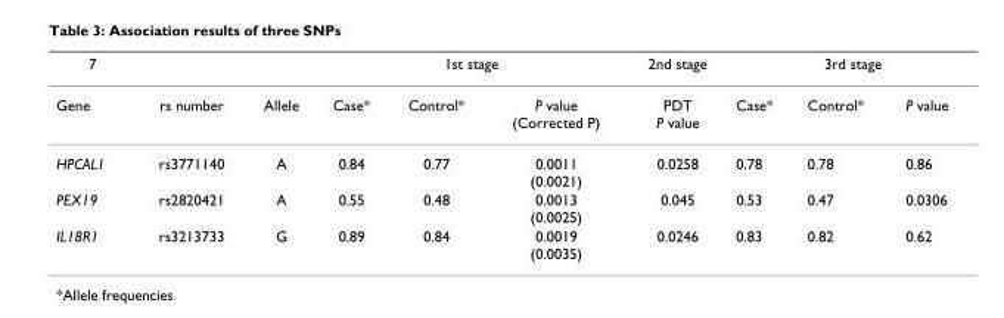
<table><thead><tr><td rowspan="2">7 Gene</td><td rowspan="2">rs number</td><td rowspan="2">Allele</td><td colspan="3">1st stage</td><td rowspan="2">2nd stage PDT P value</td><td colspan="3">3rd stage</td></tr><tr><td>Case*</td><td>Control*</td><td>P value (Corrected P)</td><td>Case*</td><td>Control*</td><td>P value</td></tr></thead><tbody><tr><td>HPCAL1</td><td>rs3771140</td><td>A</td><td>0.84</td><td>0.77</td><td>0.0011 (0.0021)</td><td>0.0258</td><td>0.78</td><td>0.78</td><td>0.86</td></tr><tr><td>PEX19</td><td>rs2820421</td><td>A</td><td>0.55</td><td>0.48</td><td>0.0013 (0.0025)</td><td>0.045</td><td>0.53</td><td>0.47</td><td>0.0306</td></tr><tr><td>IL18R1</td><td>rs3213733</td><td>G</td><td>0.89</td><td>0.84</td><td>0.0019 (0.0035)</td><td>0.0246</td><td>0.83</td><td>0.82</td><td>0.62</td></tr></tbody></table>